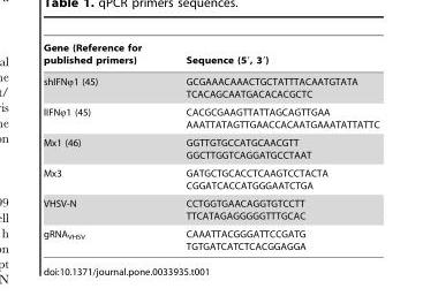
<table><thead><tr><td>Gene (Reference for published primers)</td><td>Sequence (5′, 3′)</td></tr></thead><tbody><tr><td>shIFNϕ1 (45)</td><td>GCGAAACAAACTGCTATTTACAATGTATA TCACAGCAATGACACACGCTC</td></tr><tr><td>lIFNϕ1 (45)</td><td>CACGCGAAGTTATTAGCAGTTGAA AAATTATAGTTGAACCACAATGAAATATTATTC</td></tr><tr><td>Mx1 (46)</td><td>GGTTGTGCCATGCAACGTT GGCTTGGTCAGGATGCCTAAT</td></tr><tr><td>Mx3</td><td>GATGCTGCACCTCAAGTCCTACTA CGGATCACCATGGGAATCTGA</td></tr><tr><td>VHSV-N</td><td>CCTGGTGAACAGGTGTCCTT TTCATAGAGGGGGTTTGCAC</td></tr><tr><td>gRNA<sub>VHSV</sub></td><td>CAAATTACGGGATTCCGATG TGTGATCATCTCACGGAGGA</td></tr></tbody></table>